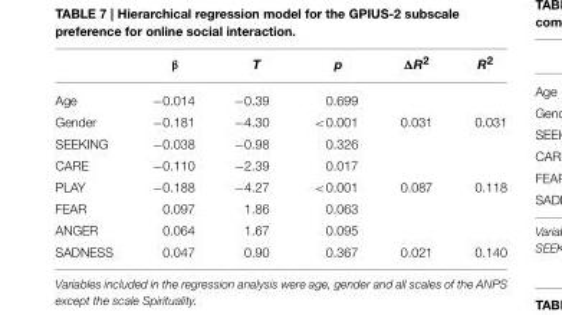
<table><thead><tr><td></td><td>β</td><td>T</td><td>p</td><td>ΔR<sup>2</sup></td><td>R<sup>2</sup></td></tr></thead><tbody><tr><td>Age</td><td>−0.014</td><td>−0.39</td><td>0.699</td><td></td><td></td></tr><tr><td>Gender</td><td>−0.181</td><td>−4.30</td><td>&lt;0.001</td><td>0.031</td><td>0.031</td></tr><tr><td>SEEKING</td><td>−0.038</td><td>−0.98</td><td>0.326</td><td></td><td></td></tr><tr><td>CARE</td><td>−0.110</td><td>−2.39</td><td>0.017</td><td></td><td></td></tr><tr><td>PLAY</td><td>−0.188</td><td>−4.27</td><td>&lt;0.001</td><td>0.087</td><td>0.118</td></tr><tr><td>FEAR</td><td>0.097</td><td>1.86</td><td>0.063</td><td></td><td></td></tr><tr><td>ANGER</td><td>0.064</td><td>1.67</td><td>0.095</td><td></td><td></td></tr><tr><td>SADNESS</td><td>0.047</td><td>0.90</td><td>0.367</td><td>0.021</td><td>0.140</td></tr></tbody></table>